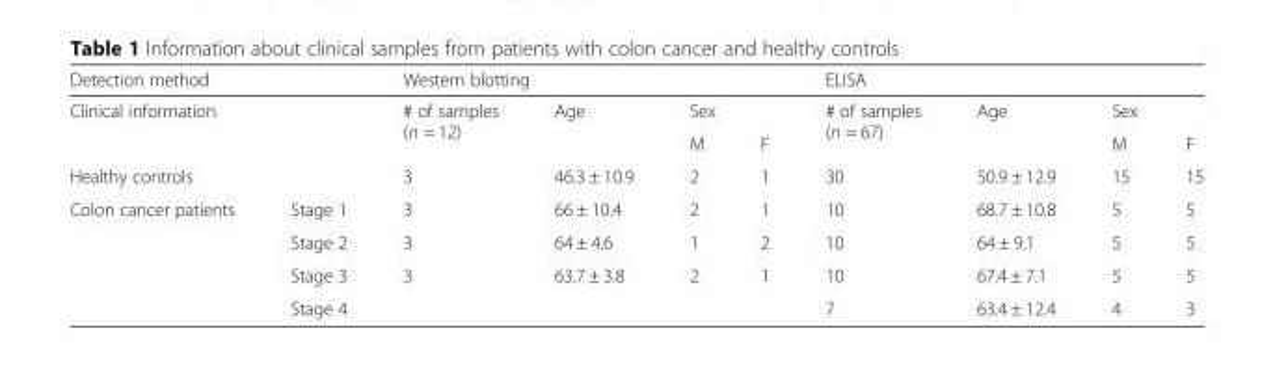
<table><thead><tr><td colspan="2">Detection method</td><td colspan="4">Western blotting</td><td colspan="4">ELISA</td></tr></thead><tbody><tr><td rowspan="2" colspan="2">Clinical information</td><td rowspan="2"># of samples (n = 12)</td><td rowspan="2">Age</td><td colspan="2">Sex</td><td rowspan="2"># of samples (n = 67)</td><td rowspan="2">Age</td><td colspan="2">Sex</td></tr><tr><td>M</td><td>F</td><td>M</td><td>F</td></tr><tr><td colspan="2">Healthy controls</td><td>3</td><td>46.3 ± 10.9</td><td>2</td><td>1</td><td>30</td><td>50.9 ± 12.9</td><td>15</td><td>15</td></tr><tr><td rowspan="4">Colon cancer patients</td><td>Stage 1</td><td>3</td><td>66 ± 10.4</td><td>2</td><td>1</td><td>10</td><td>68.7 ± 10.8</td><td>5</td><td>5</td></tr><tr><td>Stage 2</td><td>3</td><td>64 ± 4.6</td><td>1</td><td>2</td><td>10</td><td>64 ± 9.1</td><td>5</td><td>5</td></tr><tr><td>Stage 3</td><td>3</td><td>63.7 ± 3.8</td><td>2</td><td>1</td><td>10</td><td>67.4 ± 7.1</td><td>5</td><td>5</td></tr><tr><td>Stage 4</td><td></td><td></td><td></td><td></td><td>7</td><td>63.4 ± 12.4</td><td>4</td><td>3</td></tr></tbody></table>